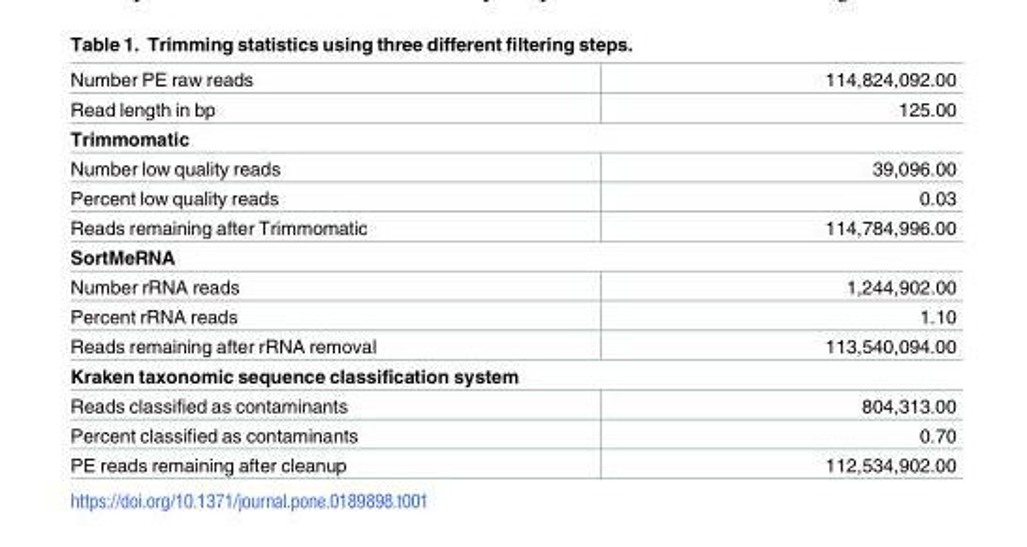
<table><tbody><tr><td>Number PE raw reads</td><td>114,824,092.00</td></tr><tr><td>Read length in bp</td><td>125.00</td></tr><tr><td colspan="2">Trimmomatic</td></tr><tr><td>Number low quality reads</td><td>39,096.00</td></tr><tr><td>Percent low quality reads</td><td>0.03</td></tr><tr><td>Reads remaining after Trimmomatic</td><td>114,784,996.00</td></tr><tr><td colspan="2">SortMeRNA</td></tr><tr><td>Number rRNA reads</td><td>1,244,902.00</td></tr><tr><td>Percent rRNA reads</td><td>1.10</td></tr><tr><td>Reads remaining after rRNA removal</td><td>113,540,094.00</td></tr><tr><td colspan="2">Kraken taxonomic sequence classification system</td></tr><tr><td>Reads classified as contaminants</td><td>804,313.00</td></tr><tr><td>Percent classified as contaminants</td><td>0.70</td></tr><tr><td>PE reads remaining after cleanup</td><td>112,534,902.00</td></tr></tbody></table>